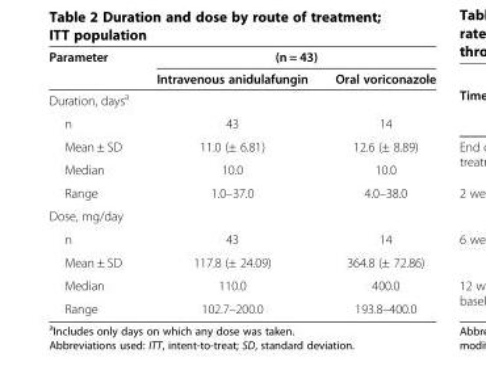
<table><thead><tr><td rowspan="2">Parameter</td><td colspan="2">(n = 43)</td></tr><tr><td>Intravenous anidulafungin</td><td>Oral voriconazole</td></tr></thead><tbody><tr><td colspan="3">Duration, days<sup>a</sup></td></tr><tr><td>n</td><td>43</td><td>14</td></tr><tr><td>Mean ± SD</td><td>11.0 (± 6.81)</td><td>12.6 (± 8.89)</td></tr><tr><td>Median</td><td>10.0</td><td>10.0</td></tr><tr><td>Range</td><td>1.0–37.0</td><td>4.0–38.0</td></tr><tr><td colspan="3">Dose, mg/day</td></tr><tr><td>n</td><td>43</td><td>14</td></tr><tr><td>Mean ± SD</td><td>117.8 (± 24.09)</td><td>364.8 (± 72.86)</td></tr><tr><td>Median</td><td>110.0</td><td>400.0</td></tr><tr><td>Range</td><td>102.7–200.0</td><td>193.8–400.0</td></tr></tbody></table>